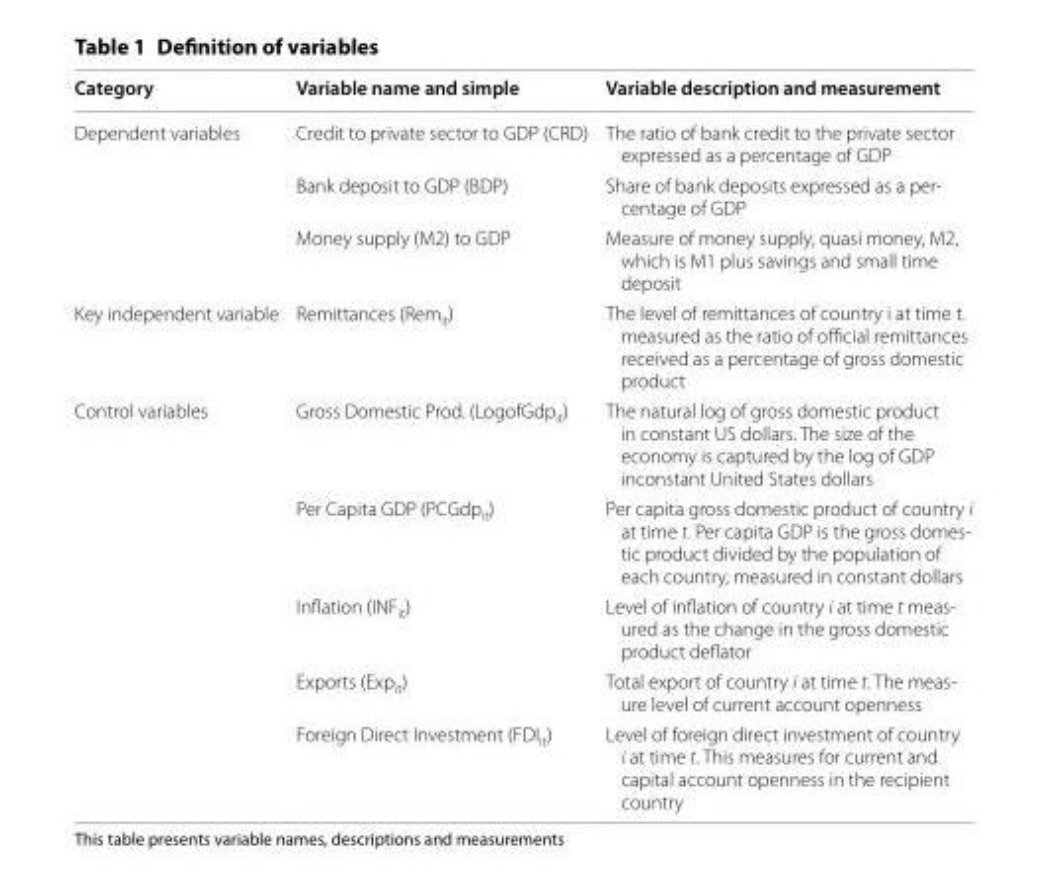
<table><thead><tr><td>Category</td><td>Variable name and simple</td><td>Variable description and measurement</td></tr></thead><tbody><tr><td rowspan="3">Dependent variables</td><td>Credit to private sector to GDP (CRD)</td><td>The ratio of bank credit to the private sector expressed as a percentage of GDP</td></tr><tr><td>Bank deposit to GDP (BDP)</td><td>Share of bank deposits expressed as a per- centage of GDP</td></tr><tr><td>Money supply (M2) to GDP</td><td>Measure of money supply, quasi money, M2, which is M1 plus savings and small time deposit</td></tr><tr><td>Key independent variable</td><td>Remittances (Rem<sub>it</sub>)</td><td>The level of remittances of country i at time t. measured as the ratio of official remittances received as a percentage of gross domestic product</td></tr><tr><td rowspan="5">Control variables</td><td>Gross Domestic Prod. (LogofGdp<sub>it</sub>)</td><td>The natural log of gross domestic product in constant US dollars. The size of the economy is captured by the log of GDP inconstant United States dollars</td></tr><tr><td>Per Capita GDP (PCGdp<sub>it</sub>)</td><td>Per capita gross domestic product of country i at time t. Per capita GDP is the gross domes- tic product divided by the population of each country, measured in constant dollars</td></tr><tr><td>Inflation (INF<sub>it</sub>)</td><td>Level of inflation of country i at time t meas- ured as the change in the gross domestic product deflator</td></tr><tr><td>Exports (Exp<sub>it</sub>)</td><td>Total export of country i at time t. The meas- ure level of current account openness</td></tr><tr><td>Foreign Direct Investment (FDI<sub>it</sub>)</td><td>Level of foreign direct investment of country i at time t. This measures for current and capital account openness in the recipient country</td></tr></tbody></table>